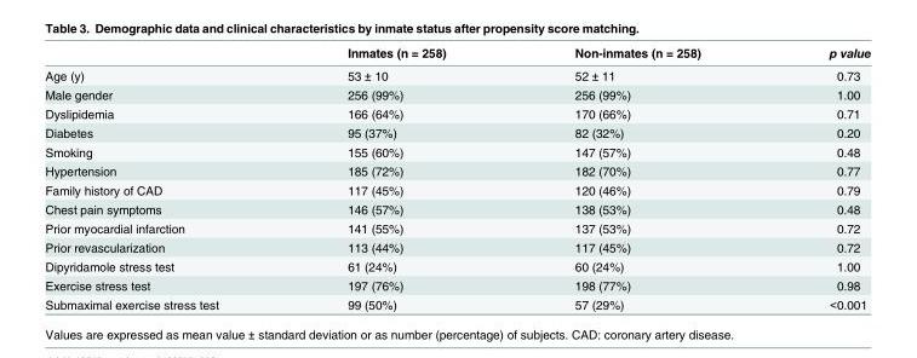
<table><thead><tr><td></td><td>Inmates (n = 258)</td><td>Non-inmates (n = 258)</td><td>p value</td></tr></thead><tbody><tr><td>Age (y)</td><td>53 ± 10</td><td>52 ± 11</td><td>0.73</td></tr><tr><td>Male gender</td><td>256 (99%)</td><td>256 (99%)</td><td>1.00</td></tr><tr><td>Dyslipidemia</td><td>166 (64%)</td><td>170 (66%)</td><td>0.71</td></tr><tr><td>Diabetes</td><td>95 (37%)</td><td>82 (32%)</td><td>0.20</td></tr><tr><td>Smoking</td><td>155 (60%)</td><td>147 (57%)</td><td>0.48</td></tr><tr><td>Hypertension</td><td>185 (72%)</td><td>182 (70%)</td><td>0.77</td></tr><tr><td>Family history of CAD</td><td>117 (45%)</td><td>120 (46%)</td><td>0.79</td></tr><tr><td>Chest pain symptoms</td><td>146 (57%)</td><td>138 (53%)</td><td>0.48</td></tr><tr><td>Prior myocardial infarction</td><td>141 (55%)</td><td>137 (53%)</td><td>0.72</td></tr><tr><td>Prior revascularization</td><td>113 (44%)</td><td>117 (45%)</td><td>0.72</td></tr><tr><td>Dipyridamole stress test</td><td>61 (24%)</td><td>60 (24%)</td><td>1.00</td></tr><tr><td>Exercise stress test</td><td>197 (76%)</td><td>198 (77%)</td><td>0.98</td></tr><tr><td>Submaximal exercise stress test</td><td>99 (50%)</td><td>57 (29%)</td><td>&lt;0.001</td></tr></tbody></table>